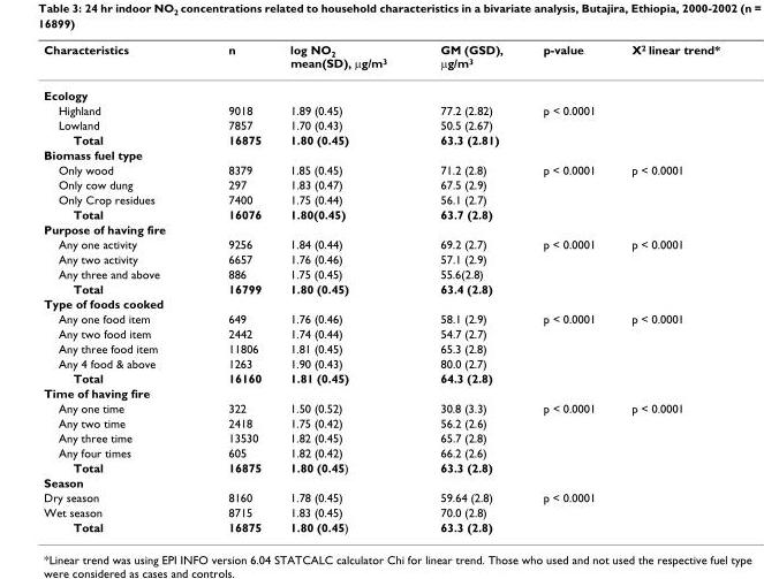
<table><thead><tr><td>Characteristics</td><td>n</td><td>log NO<sub>2</sub> mean(SD), μg/m<sup>3</sup></td><td>GM (GSD), μg/m<sup>3</sup></td><td>p-value</td><td>X<sup>2</sup> linear trend*</td></tr></thead><tbody><tr><td colspan="6">Ecology</td></tr><tr><td>Highland</td><td>9018</td><td>1.89 (0.45)</td><td>77.2 (2.82)</td><td>p &lt; 0.0001</td><td></td></tr><tr><td>Lowland</td><td>7857</td><td>1.70 (0.43)</td><td>50.5 (2.67)</td><td></td><td></td></tr><tr><td>Total</td><td>16875</td><td>1.80 (0.45)</td><td>63.3 (2.81)</td><td></td><td></td></tr><tr><td colspan="6">Biomass fuel type</td></tr><tr><td>Only wood</td><td>8379</td><td>1.85 (0.45)</td><td>71.2 (2.8)</td><td>p &lt; 0.0001</td><td>p &lt; 0.0001</td></tr><tr><td>Only cow dung</td><td>297</td><td>1.83 (0.47)</td><td>67.5 (2.9)</td><td></td><td></td></tr><tr><td>Only Crop residues</td><td>7400</td><td>1.75 (0.44)</td><td>56.1 (2.7)</td><td></td><td></td></tr><tr><td>Total</td><td>16076</td><td>1.80(0.45)</td><td>63.7 (2.8)</td><td></td><td></td></tr><tr><td colspan="6">Purpose of having fire</td></tr><tr><td>Any one activity</td><td>9256</td><td>1.84 (0.44)</td><td>69.2 (2.7)</td><td>p &lt; 0.0001</td><td>p &lt; 0.0001</td></tr><tr><td>Any two activity</td><td>6657</td><td>1.76 (0.46)</td><td>57.1 (2.9)</td><td></td><td></td></tr><tr><td>Any three and above</td><td>886</td><td>1.75 (0.45)</td><td>55.6(2.8)</td><td></td><td></td></tr><tr><td>Total</td><td>16799</td><td>1.80 (0.45)</td><td>63.4 (2.8)</td><td></td><td></td></tr><tr><td colspan="6">Type of foods cooked</td></tr><tr><td>Any one food item</td><td>649</td><td>1.76 (0.46)</td><td>58.1 (2.9)</td><td>p &lt; 0.0001</td><td>p &lt; 0.0001</td></tr><tr><td>Any two food item</td><td>2442</td><td>1.74 (0.44)</td><td>54.7 (2.7)</td><td></td><td></td></tr><tr><td>Any three food item</td><td>11806</td><td>1.81 (0.45)</td><td>65.3 (2.8)</td><td></td><td></td></tr><tr><td>Any 4 food &amp; above</td><td>1263</td><td>1.90 (0.43)</td><td>80.0 (2.7)</td><td></td><td></td></tr><tr><td>Total</td><td>16160</td><td>1.81 (0.45)</td><td>64.3 (2.8)</td><td></td><td></td></tr><tr><td colspan="6">Time of having fire</td></tr><tr><td>Any one time</td><td>322</td><td>1.50 (0.52)</td><td>30.8 (3.3)</td><td>p &lt; 0.0001</td><td>p &lt; 0.0001</td></tr><tr><td>Any two time</td><td>2418</td><td>1.75 (0.42)</td><td>56.2 (2.6)</td><td></td><td></td></tr><tr><td>Any three time</td><td>13530</td><td>1.82 (0.45)</td><td>65.7 (2.8)</td><td></td><td></td></tr><tr><td>Any four times</td><td>605</td><td>1.82 (0.42)</td><td>66.2 (2.6)</td><td></td><td></td></tr><tr><td>Total</td><td>16875</td><td>1.80 (0.45)</td><td>63.3 (2.8)</td><td></td><td></td></tr><tr><td colspan="6">Season</td></tr><tr><td>Dry season</td><td>8160</td><td>1.78 (0.45)</td><td>59.64 (2.8)</td><td>p &lt; 0.0001</td><td></td></tr><tr><td>Wet season</td><td>8715</td><td>1.83 (0.45)</td><td>70.0 (2.8)</td><td></td><td></td></tr><tr><td>Total</td><td>16875</td><td>1.80 (0.45)</td><td>63.3 (2.8)</td><td></td><td></td></tr></tbody></table>